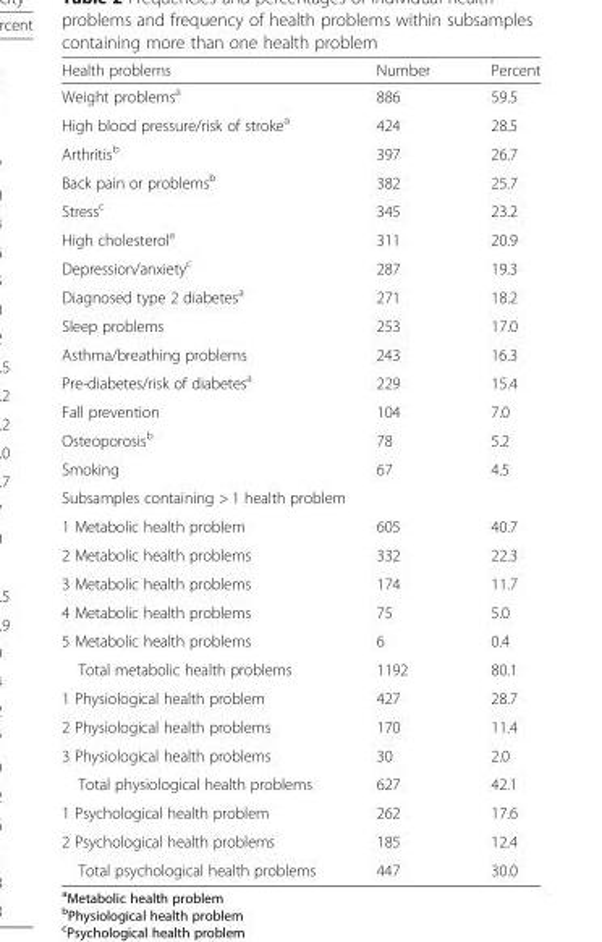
<table><thead><tr><td>Health problems</td><td>Number</td><td>Percent</td></tr></thead><tbody><tr><td>Weight problems<sup>a</sup></td><td>886</td><td>59.5</td></tr><tr><td>High blood pressure/risk of stroke<sup>a</sup></td><td>424</td><td>28.5</td></tr><tr><td>Arthritis<sup>b</sup></td><td>397</td><td>26.7</td></tr><tr><td>Back pain or problems<sup>b</sup></td><td>382</td><td>25.7</td></tr><tr><td>Stress<sup>c</sup></td><td>345</td><td>23.2</td></tr><tr><td>High cholesterol<sup>a</sup></td><td>311</td><td>20.9</td></tr><tr><td>Depression/anxiety<sup>c</sup></td><td>287</td><td>19.3</td></tr><tr><td>Diagnosed type 2 diabetes<sup>a</sup></td><td>271</td><td>18.2</td></tr><tr><td>Sleep problems</td><td>253</td><td>17.0</td></tr><tr><td>Asthma/breathing problems</td><td>243</td><td>16.3</td></tr><tr><td>Pre-diabetes/risk of diabetes<sup>a</sup></td><td>229</td><td>15.4</td></tr><tr><td>Fall prevention</td><td>104</td><td>7.0</td></tr><tr><td>Osteoporosis<sup>b</sup></td><td>78</td><td>5.2</td></tr><tr><td>Smoking</td><td>67</td><td>4.5</td></tr><tr><td colspan="3">Subsamples containing &gt; 1 health problem</td></tr><tr><td>1 Metabolic health problem</td><td>605</td><td>40.7</td></tr><tr><td>2 Metabolic health problems</td><td>332</td><td>22.3</td></tr><tr><td>3 Metabolic health problems</td><td>174</td><td>11.7</td></tr><tr><td>4 Metabolic health problems</td><td>75</td><td>5.0</td></tr><tr><td>5 Metabolic health problems</td><td>6</td><td>0.4</td></tr><tr><td>Total metabolic health problems</td><td>1192</td><td>80.1</td></tr><tr><td>1 Physiological health problem</td><td>427</td><td>28.7</td></tr><tr><td>2 Physiological health problems</td><td>170</td><td>11.4</td></tr><tr><td>3 Physiological health problems</td><td>30</td><td>2.0</td></tr><tr><td>Total physiological health problems</td><td>627</td><td>42.1</td></tr><tr><td>1 Psychological health problem</td><td>262</td><td>17.6</td></tr><tr><td>2 Psychological health problems</td><td>185</td><td>12.4</td></tr><tr><td>Total psychological health problems</td><td>447</td><td>30.0</td></tr></tbody></table>